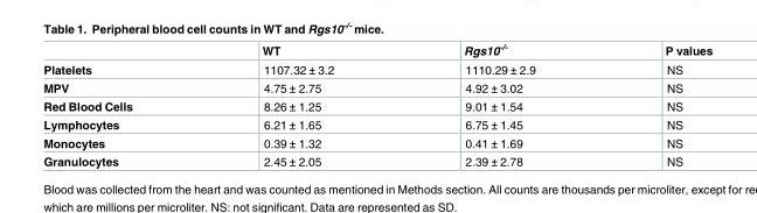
<table><thead><tr><td></td><td>WT</td><td>Rgs10<sup>-/-</sup></td><td>P values</td></tr></thead><tbody><tr><td>Platelets</td><td>1107.32 ± 3.2</td><td>1110.29 ± 2.9</td><td>NS</td></tr><tr><td>MPV</td><td>4.75 ± 2.75</td><td>4.92 ± 3.02</td><td>NS</td></tr><tr><td>Red Blood Cells</td><td>8.26 ± 1.25</td><td>9.01 ± 1.54</td><td>NS</td></tr><tr><td>Lymphocytes</td><td>6.21 ± 1.65</td><td>6.75 ± 1.45</td><td>NS</td></tr><tr><td>Monocytes</td><td>0.39 ± 1.32</td><td>0.41 ± 1.69</td><td>NS</td></tr><tr><td>Granulocytes</td><td>2.45 ± 2.05</td><td>2.39 ± 2.78</td><td>NS</td></tr></tbody></table>